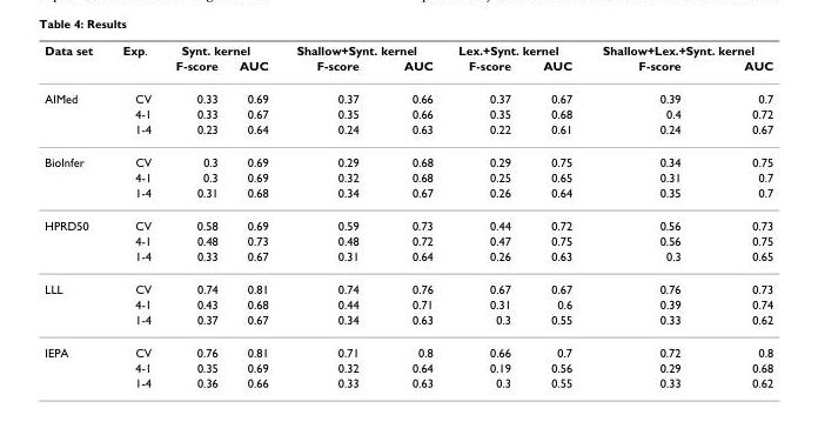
<table><thead><tr><td rowspan="2">Data set</td><td rowspan="2">Exp.</td><td colspan="2">Synt. kernel</td><td colspan="2">Shallow+Synt. kernel</td><td colspan="2">Lex.+Synt. kernel</td><td colspan="2">Shallow+Lex.+Synt. kernel</td></tr><tr><td>F-score</td><td>AUC</td><td>F-score</td><td>AUC</td><td>F-score</td><td>AUC</td><td>F-score</td><td>AUC</td></tr></thead><tbody><tr><td rowspan="3">AIMed</td><td>CV</td><td>0.33</td><td>0.69</td><td>0.37</td><td>0.66</td><td>0.37</td><td>0.67</td><td>0.39</td><td>0.7</td></tr><tr><td>4-1</td><td>0.33</td><td>0.67</td><td>0.35</td><td>0.66</td><td>0.35</td><td>0.68</td><td>0.4</td><td>0.72</td></tr><tr><td>1-4</td><td>0.23</td><td>0.64</td><td>0.24</td><td>0.63</td><td>0.22</td><td>0.61</td><td>0.24</td><td>0.67</td></tr><tr><td rowspan="3">BioInfer</td><td>CV</td><td>0.3</td><td>0.69</td><td>0.29</td><td>0.68</td><td>0.29</td><td>0.75</td><td>0.34</td><td>0.75</td></tr><tr><td>4-1</td><td>0.3</td><td>0.69</td><td>0.32</td><td>0.68</td><td>0.25</td><td>0.65</td><td>0.31</td><td>0.7</td></tr><tr><td>1-4</td><td>0.31</td><td>0.68</td><td>0.34</td><td>0.67</td><td>0.26</td><td>0.64</td><td>0.35</td><td>0.7</td></tr><tr><td rowspan="3">HPRD50</td><td>CV</td><td>0.58</td><td>0.69</td><td>0.59</td><td>0.73</td><td>0.44</td><td>0.72</td><td>0.56</td><td>0.73</td></tr><tr><td>4-1</td><td>0.48</td><td>0.73</td><td>0.48</td><td>0.72</td><td>0.47</td><td>0.75</td><td>0.56</td><td>0.75</td></tr><tr><td>1-4</td><td>0.33</td><td>0.67</td><td>0.31</td><td>0.64</td><td>0.26</td><td>0.63</td><td>0.3</td><td>0.65</td></tr><tr><td rowspan="3">LLL</td><td>CV</td><td>0.74</td><td>0.81</td><td>0.74</td><td>0.76</td><td>0.67</td><td>0.67</td><td>0.76</td><td>0.73</td></tr><tr><td>4-1</td><td>0.43</td><td>0.68</td><td>0.44</td><td>0.71</td><td>0.31</td><td>0.6</td><td>0.39</td><td>0.74</td></tr><tr><td>1-4</td><td>0.37</td><td>0.67</td><td>0.34</td><td>0.63</td><td>0.3</td><td>0.55</td><td>0.33</td><td>0.62</td></tr><tr><td rowspan="3">IEPA</td><td>CV</td><td>0.76</td><td>0.81</td><td>0.71</td><td>0.8</td><td>0.66</td><td>0.7</td><td>0.72</td><td>0.8</td></tr><tr><td>4-1</td><td>0.35</td><td>0.69</td><td>0.32</td><td>0.64</td><td>0.19</td><td>0.56</td><td>0.29</td><td>0.68</td></tr><tr><td>1-4</td><td>0.36</td><td>0.66</td><td>0.33</td><td>0.63</td><td>0.3</td><td>0.55</td><td>0.33</td><td>0.62</td></tr></tbody></table>